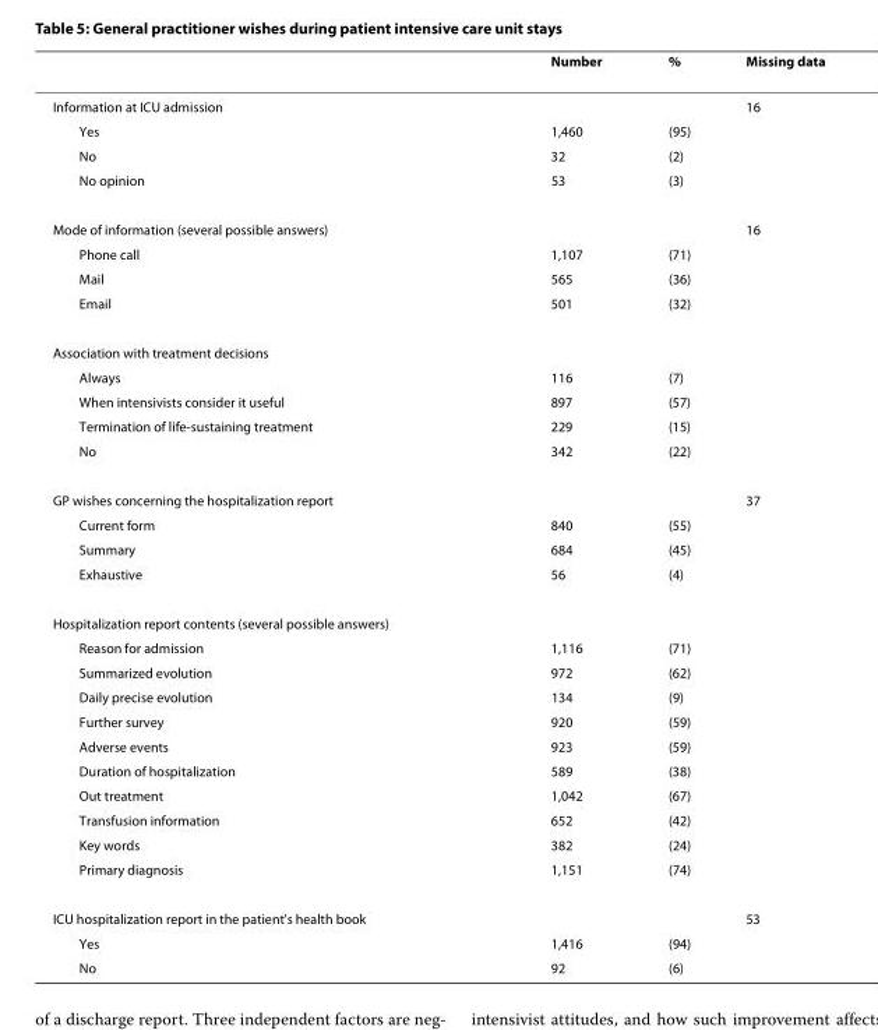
<table><thead><tr><td></td><td>Number</td><td>%</td><td>Missing data</td></tr></thead><tbody><tr><td>Information at ICU admission</td><td></td><td></td><td>16</td></tr><tr><td>Yes</td><td>1,460</td><td>(95)</td><td></td></tr><tr><td>No</td><td>32</td><td>(2)</td><td></td></tr><tr><td>No opinion</td><td>53</td><td>(3)</td><td></td></tr><tr><td>Mode of information (several possible answers)</td><td></td><td></td><td>16</td></tr><tr><td>Phone call</td><td>1,107</td><td>(71)</td><td></td></tr><tr><td>Mail</td><td>565</td><td>(36)</td><td></td></tr><tr><td>Email</td><td>501</td><td>(32)</td><td></td></tr><tr><td colspan="4">Association with treatment decisions</td></tr><tr><td>Always</td><td>116</td><td>(7)</td><td></td></tr><tr><td>When intensivists consider it useful</td><td>897</td><td>(57)</td><td></td></tr><tr><td>Termination of life-sustaining treatment</td><td>229</td><td>(15)</td><td></td></tr><tr><td>No</td><td>342</td><td>(22)</td><td></td></tr><tr><td>GP wishes concerning the hospitalization report</td><td></td><td></td><td>37</td></tr><tr><td>Current form</td><td>840</td><td>(55)</td><td></td></tr><tr><td>Summary</td><td>684</td><td>(45)</td><td></td></tr><tr><td>Exhaustive</td><td>56</td><td>(4)</td><td></td></tr><tr><td colspan="4">Hospitalization report contents (several possible answers)</td></tr><tr><td>Reason for admission</td><td>1,116</td><td>(71)</td><td></td></tr><tr><td>Summarized evolution</td><td>972</td><td>(62)</td><td></td></tr><tr><td>Daily precise evolution</td><td>134</td><td>(9)</td><td></td></tr><tr><td>Further survey</td><td>920</td><td>(59)</td><td></td></tr><tr><td>Adverse events</td><td>923</td><td>(59)</td><td></td></tr><tr><td>Duration of hospitalization</td><td>589</td><td>(38)</td><td></td></tr><tr><td>Out treatment</td><td>1,042</td><td>(67)</td><td></td></tr><tr><td>Transfusion information</td><td>652</td><td>(42)</td><td></td></tr><tr><td>Key words</td><td>382</td><td>(24)</td><td></td></tr><tr><td>Primary diagnosis</td><td>1,151</td><td>(74)</td><td></td></tr><tr><td>ICU hospitalization report in the patient&#x27;s health book</td><td></td><td></td><td>53</td></tr><tr><td>Yes</td><td>1,416</td><td>(94)</td><td></td></tr><tr><td>No</td><td>92</td><td>(6)</td><td></td></tr></tbody></table>